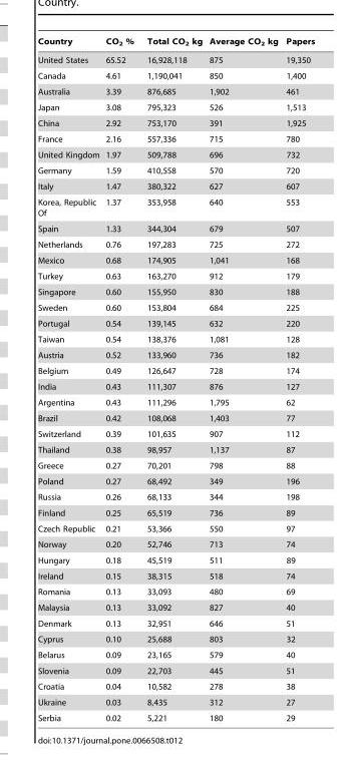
<table><thead><tr><td>Country</td><td>CO<sub>2</sub> %</td><td>Total CO<sub>2</sub> kg</td><td>Average CO<sub>2</sub> kg</td><td>Papers</td></tr></thead><tbody><tr><td>United States</td><td>65.52</td><td>16,928,118</td><td>875</td><td>19,350</td></tr><tr><td>Canada</td><td>4.61</td><td>1,190,041</td><td>850</td><td>1,400</td></tr><tr><td>Australia</td><td>3.39</td><td>876,685</td><td>1,902</td><td>461</td></tr><tr><td>Japan</td><td>3.08</td><td>795,323</td><td>526</td><td>1,513</td></tr><tr><td>China</td><td>2.92</td><td>753,170</td><td>391</td><td>1,925</td></tr><tr><td>France</td><td>2.16</td><td>557,336</td><td>715</td><td>780</td></tr><tr><td>United Kingdom</td><td>1.97</td><td>509,788</td><td>696</td><td>732</td></tr><tr><td>Germany</td><td>1.59</td><td>410,558</td><td>570</td><td>720</td></tr><tr><td>Italy</td><td>1.47</td><td>380,322</td><td>627</td><td>607</td></tr><tr><td>Korea, Republic Of</td><td>1.37</td><td>353,958</td><td>640</td><td>553</td></tr><tr><td>Spain</td><td>1.33</td><td>344,304</td><td>679</td><td>507</td></tr><tr><td>Netherlands</td><td>0.76</td><td>197,283</td><td>725</td><td>272</td></tr><tr><td>Mexico</td><td>0.68</td><td>174,905</td><td>1,041</td><td>168</td></tr><tr><td>Turkey</td><td>0.63</td><td>163,270</td><td>912</td><td>179</td></tr><tr><td>Singapore</td><td>0.60</td><td>155,950</td><td>830</td><td>188</td></tr><tr><td>Sweden</td><td>0.60</td><td>153,804</td><td>684</td><td>225</td></tr><tr><td>Portugal</td><td>0.54</td><td>139,145</td><td>632</td><td>220</td></tr><tr><td>Taiwan</td><td>0.54</td><td>138,376</td><td>1,081</td><td>128</td></tr><tr><td>Austria</td><td>0.52</td><td>133,960</td><td>736</td><td>182</td></tr><tr><td>Belgium</td><td>0.49</td><td>126,647</td><td>728</td><td>174</td></tr><tr><td>India</td><td>0.43</td><td>111,307</td><td>876</td><td>127</td></tr><tr><td>Argentina</td><td>0.43</td><td>111,296</td><td>1,795</td><td>62</td></tr><tr><td>Brazil</td><td>0.42</td><td>108,068</td><td>1,403</td><td>77</td></tr><tr><td>Switzerland</td><td>0.39</td><td>101,635</td><td>907</td><td>112</td></tr><tr><td>Thailand</td><td>0.38</td><td>98,957</td><td>1,137</td><td>87</td></tr><tr><td>Greece</td><td>0.27</td><td>70,201</td><td>798</td><td>88</td></tr><tr><td>Poland</td><td>0.27</td><td>68,492</td><td>349</td><td>196</td></tr><tr><td>Russia</td><td>0.26</td><td>68,133</td><td>344</td><td>198</td></tr><tr><td>Finland</td><td>0.25</td><td>65,519</td><td>736</td><td>89</td></tr><tr><td>Czech Republic</td><td>0.21</td><td>53,366</td><td>550</td><td>97</td></tr><tr><td>Norway</td><td>0.20</td><td>52,746</td><td>713</td><td>74</td></tr><tr><td>Hungary</td><td>0.18</td><td>45,519</td><td>511</td><td>89</td></tr><tr><td>Ireland</td><td>0.15</td><td>38,315</td><td>518</td><td>74</td></tr><tr><td>Romania</td><td>0.13</td><td>33,093</td><td>480</td><td>69</td></tr><tr><td>Malaysia</td><td>0.13</td><td>33,092</td><td>827</td><td>40</td></tr><tr><td>Denmark</td><td>0.13</td><td>32,951</td><td>646</td><td>51</td></tr><tr><td>Cyprus</td><td>0.10</td><td>25,688</td><td>803</td><td>32</td></tr><tr><td>Belarus</td><td>0.09</td><td>23,165</td><td>579</td><td>40</td></tr><tr><td>Slovenia</td><td>0.09</td><td>22,703</td><td>445</td><td>51</td></tr><tr><td>Croatia</td><td>0.04</td><td>10,582</td><td>278</td><td>38</td></tr><tr><td>Ukraine</td><td>0.03</td><td>8,435</td><td>312</td><td>27</td></tr><tr><td>Serbia</td><td>0.02</td><td>5,221</td><td>180</td><td>29</td></tr></tbody></table>